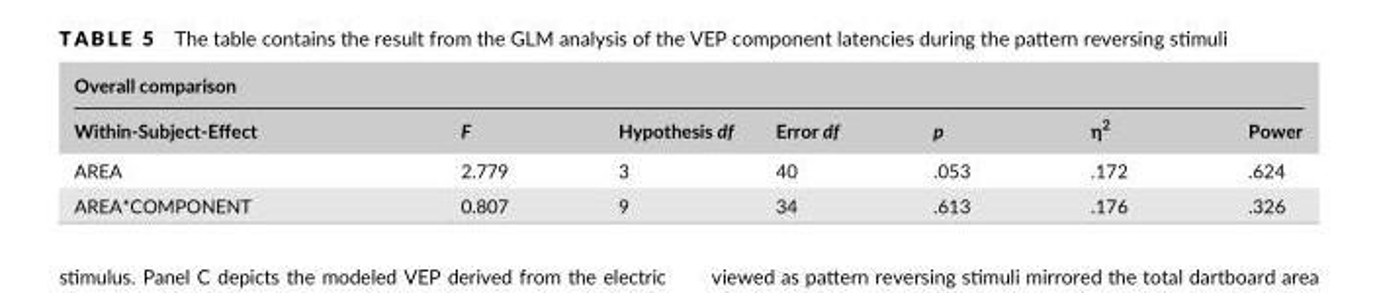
<table><thead><tr><td colspan="7">Overall comparison</td></tr><tr><td>Within- Subject- Effect</td><td>F</td><td>Hypothesis df</td><td>Error df</td><td>p</td><td>η<sup>2</sup></td><td>Power</td></tr></thead><tbody><tr><td>AREA</td><td>2.779</td><td>3</td><td>40</td><td>.053</td><td>.172</td><td>.624</td></tr><tr><td>AREA*COMPONENT</td><td>0.807</td><td>9</td><td>34</td><td>.613</td><td>.176</td><td>.326</td></tr></tbody></table>